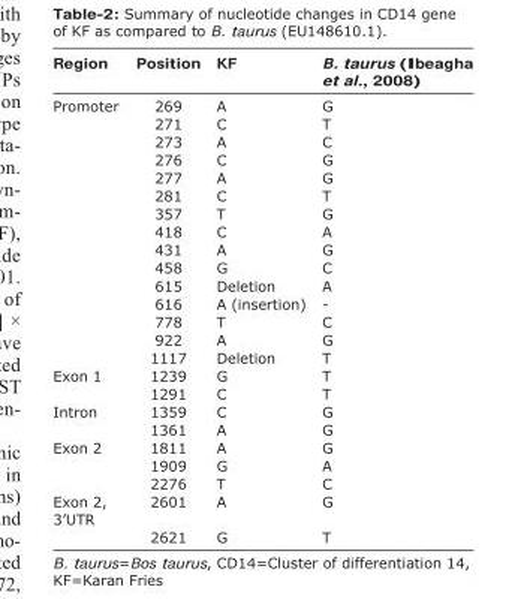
<table><thead><tr><td>Region</td><td>Position</td><td>KF</td><td>B. taurus (Ibeagha et al., 2008)</td></tr></thead><tbody><tr><td rowspan="15">Promoter</td><td>269</td><td>A</td><td>G</td></tr><tr><td>271</td><td>C</td><td>T</td></tr><tr><td>273</td><td>A</td><td>C</td></tr><tr><td>276</td><td>C</td><td>G</td></tr><tr><td>277</td><td>A</td><td>G</td></tr><tr><td>281</td><td>C</td><td>T</td></tr><tr><td>357</td><td>T</td><td>G</td></tr><tr><td>418</td><td>C</td><td>A</td></tr><tr><td>431</td><td>A</td><td>G</td></tr><tr><td>458</td><td>G</td><td>C</td></tr><tr><td>615</td><td>Deletion</td><td>A</td></tr><tr><td>616</td><td>A (insertion)</td><td>-</td></tr><tr><td>778</td><td>T</td><td>C</td></tr><tr><td>922</td><td>A</td><td>G</td></tr><tr><td>1117</td><td>Deletion</td><td>T</td></tr><tr><td rowspan="2">Exon 1</td><td>1239</td><td>G</td><td>T</td></tr><tr><td>1291</td><td>C</td><td>T</td></tr><tr><td rowspan="2">Intron</td><td>1359</td><td>C</td><td>G</td></tr><tr><td>1361</td><td>A</td><td>G</td></tr><tr><td rowspan="3">Exon 2</td><td>1811</td><td>A</td><td>G</td></tr><tr><td>1909</td><td>G</td><td>A</td></tr><tr><td>2276</td><td>T</td><td>C</td></tr><tr><td rowspan="2">Exon 2, 3’UTR</td><td>2601</td><td>A</td><td>G</td></tr><tr><td>2621</td><td>G</td><td>T</td></tr></tbody></table>